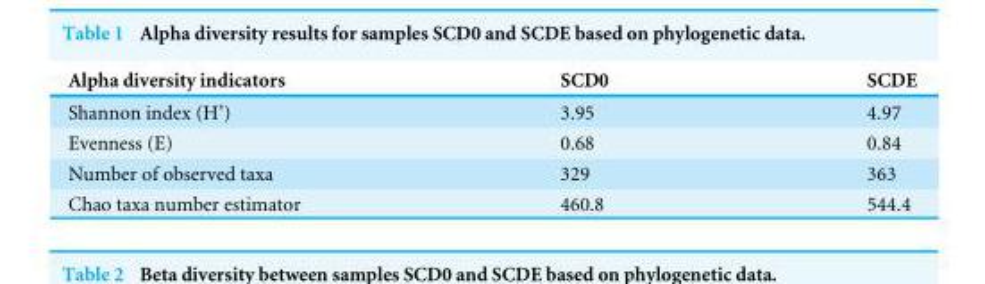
<table><thead><tr><td>Alpha diversity indicators</td><td>SCD0</td><td>SCDE</td></tr></thead><tbody><tr><td>Shannon index (H’)</td><td>3.95</td><td>4.97</td></tr><tr><td>Evenness (E)</td><td>0.68</td><td>0.84</td></tr><tr><td>Number of observed taxa</td><td>329</td><td>363</td></tr><tr><td>Chao taxa number estimator</td><td>460.8</td><td>544.4</td></tr></tbody></table>